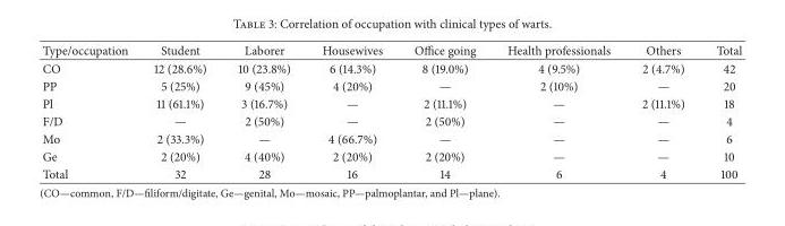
<table><thead><tr><td>Type/occupation</td><td>Student</td><td>Laborer</td><td>Housewives</td><td>Office going</td><td>Health professionals</td><td>Others</td><td>Total</td></tr></thead><tbody><tr><td>CO</td><td>12 (28.6%)</td><td>10 (23.8%)</td><td>6 (14.3%)</td><td>8 (19.0%)</td><td>4 (9.5%)</td><td>2 (4.7%)</td><td>42</td></tr><tr><td>PP</td><td>5 (25%)</td><td>9 (45%)</td><td>4 (20%)</td><td>—</td><td>2 (10%)</td><td>—</td><td>20</td></tr><tr><td>Pl</td><td>11 (61.1%)</td><td>3 (16.7%)</td><td>—</td><td>2 (11.1%)</td><td>—</td><td>2 (11.1%)</td><td>18</td></tr><tr><td>F/D</td><td>—</td><td>2 (50%)</td><td>—</td><td>2 (50%)</td><td>—</td><td>—</td><td>4</td></tr><tr><td>Mo</td><td>2 (33.3%)</td><td>—</td><td>4 (66.7%)</td><td>—</td><td>—</td><td>—</td><td>6</td></tr><tr><td>Ge</td><td>2 (20%)</td><td>4 (40%)</td><td>2 (20%)</td><td>2 (20%)</td><td>—</td><td>—</td><td>10</td></tr><tr><td>Total</td><td>32</td><td>28</td><td>16</td><td>14</td><td>6</td><td>4</td><td>100</td></tr></tbody></table>